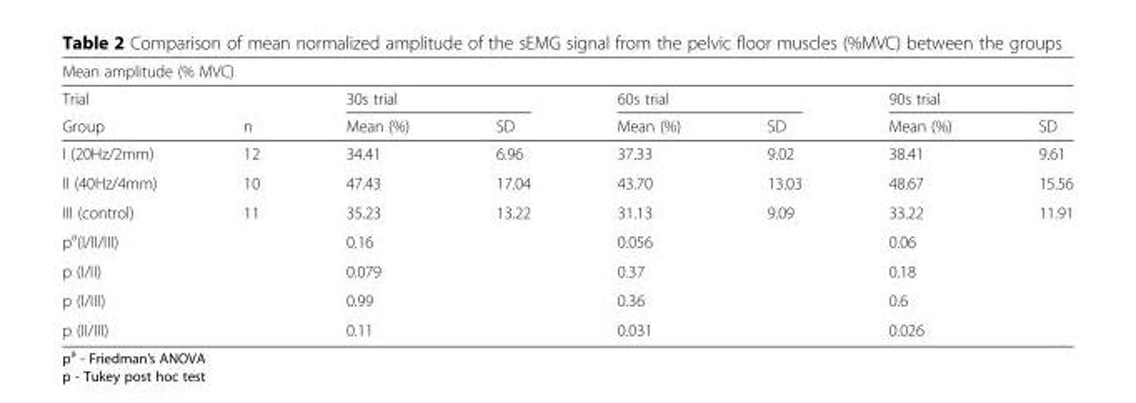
<table><thead><tr><td colspan="8">Mean amplitude (% MVC)</td></tr><tr><td rowspan="2">Trial Group</td><td rowspan="2">n</td><td colspan="2">30s trial</td><td colspan="2">60s trial</td><td colspan="2">90s trial</td></tr><tr><td>Mean (%)</td><td>SD</td><td>Mean (%)</td><td>SD</td><td>Mean (%)</td><td>SD</td></tr></thead><tbody><tr><td>I (20Hz/2mm)</td><td>12</td><td>34.41</td><td>6.96</td><td>37.33</td><td>9.02</td><td>38.41</td><td>9.61</td></tr><tr><td>II (40Hz/4mm)</td><td>10</td><td>47.43</td><td>17.04</td><td>43.70</td><td>13.03</td><td>48.67</td><td>15.56</td></tr><tr><td>III (control)</td><td>11</td><td>35.23</td><td>13.22</td><td>31.13</td><td>9.09</td><td>33.22</td><td>11.91</td></tr><tr><td>p<sup>a</sup>(I/II/III)</td><td></td><td colspan="2">0.16</td><td colspan="2">0.056</td><td colspan="2">0.06</td></tr><tr><td>p (I/II)</td><td></td><td colspan="2">0.079</td><td colspan="2">0.37</td><td colspan="2">0.18</td></tr><tr><td>p (I/III)</td><td></td><td colspan="2">0.99</td><td colspan="2">0.36</td><td colspan="2">0.6</td></tr><tr><td>p (II/III)</td><td></td><td colspan="2">0.11</td><td>0.031</td><td></td><td>0.026</td><td></td></tr></tbody></table>